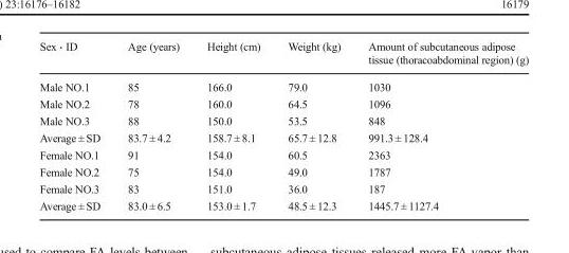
<table><thead><tr><td>Sex・ID</td><td>Age (years)</td><td>Height (cm)</td><td>Weight (kg)</td><td>Amount of subcutaneous adipose tissue (thoracoabdominal region) (g)</td></tr></thead><tbody><tr><td>Male NO.1</td><td>85</td><td>166.0</td><td>79.0</td><td>1030</td></tr><tr><td>Male NO.2</td><td>78</td><td>160.0</td><td>64.5</td><td>1096</td></tr><tr><td>Male NO.3</td><td>88</td><td>150.0</td><td>53.5</td><td>848</td></tr><tr><td>Average ± SD</td><td>83.7 ± 4.2</td><td>158.7 ± 8.1</td><td>65.7 ± 12.8</td><td>991.3 ± 128.4</td></tr><tr><td>Female NO.1</td><td>91</td><td>154.0</td><td>60.5</td><td>2363</td></tr><tr><td>Female NO.2</td><td>75</td><td>154.0</td><td>49.0</td><td>1787</td></tr><tr><td>Female NO.3</td><td>83</td><td>151.0</td><td>36.0</td><td>187</td></tr><tr><td>Average ± SD</td><td>83.0 ± 6.5</td><td>153.0 ± 1.7</td><td>48.5 ± 12.3</td><td>1445.7 ± 1127.4</td></tr></tbody></table>